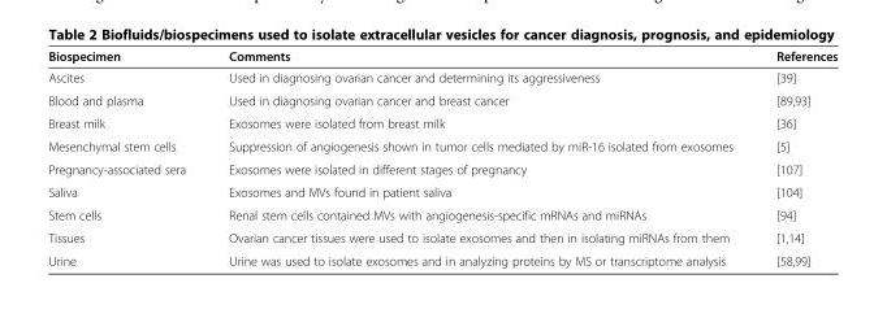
<table><thead><tr><td>Biospecimen</td><td>Comments</td><td>References</td></tr></thead><tbody><tr><td>Ascites</td><td>Used in diagnosing ovarian cancer and determining its aggressiveness</td><td>[39]</td></tr><tr><td>Blood and plasma</td><td>Used in diagnosing ovarian cancer and breast cancer</td><td>[89,93]</td></tr><tr><td>Breast milk</td><td>Exosomes were isolated from breast milk</td><td>[36]</td></tr><tr><td>Mesenchymal stem cells</td><td>Suppression of angiogenesis shown in tumor cells mediated by miR-16 isolated from exosomes</td><td>[5]</td></tr><tr><td>Pregnancy-associated sera</td><td>Exosomes were isolated in different stages of pregnancy</td><td>[107]</td></tr><tr><td>Saliva</td><td>Exosomes and MVs found in patient saliva</td><td>[104]</td></tr><tr><td>Stem cells</td><td>Renal stem cells contained MVs with angiogenesis-specific mRNAs and miRNAs</td><td>[94]</td></tr><tr><td>Tissues</td><td>Ovarian cancer tissues were used to isolate exosomes and then in isolating miRNAs from them</td><td>[1,14]</td></tr><tr><td>Urine</td><td>Urine was used to isolate exosomes and in analyzing proteins by MS or transcriptome analysis</td><td>[58,99]</td></tr></tbody></table>